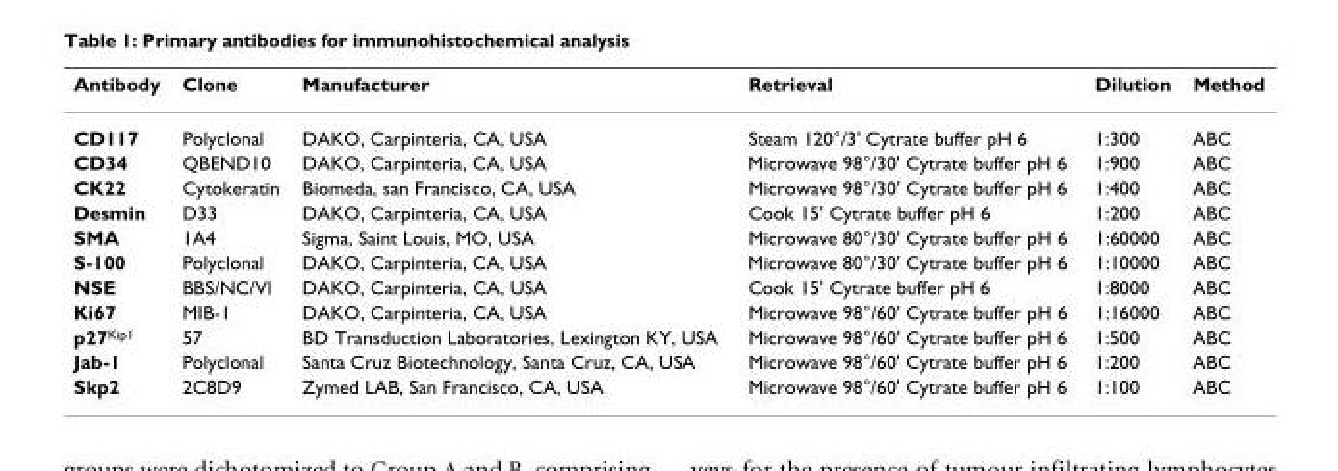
<table><thead><tr><td>Antibody</td><td>Clone</td><td>Manufacturer</td><td>Retrieval</td><td>Dilution</td><td>Method</td></tr></thead><tbody><tr><td>CD117</td><td>Polyclonal</td><td>DAKO, Carpinteria, CA, USA</td><td>Steam 120°/3&#x27; Cytrate buffer pH 6</td><td>1:300</td><td>ABC</td></tr><tr><td>CD34</td><td>QBEND10</td><td>DAKO, Carpinteria, CA, USA</td><td>Microwave 98°/30&#x27; Cytrate buffer pH 6</td><td>1:900</td><td>ABC</td></tr><tr><td>CK22</td><td>Cytokeratin</td><td>Biomeda, san Francisco, CA, USA</td><td>Microwave 98°/30&#x27; Cytrate buffer pH 6</td><td>1:400</td><td>ABC</td></tr><tr><td>Desmin</td><td>D33</td><td>DAKO, Carpinteria, CA, USA</td><td>Cook 15&#x27; Cytrate buffer pH 6</td><td>1:200</td><td>ABC</td></tr><tr><td>SMA</td><td>1A4</td><td>Sigma, Saint Louis, MO, USA</td><td>Microwave 80°/30&#x27; Cytrate buffer pH 6</td><td>1:60000</td><td>ABC</td></tr><tr><td>S-100</td><td>Polyclonal</td><td>DAKO, Carpinteria, CA, USA</td><td>Microwave 80°/30&#x27; Cytrate buffer pH 6</td><td>1:10000</td><td>ABC</td></tr><tr><td>NSE</td><td>BBS/NC/VI</td><td>DAKO, Carpinteria, CA, USA</td><td>Cook 15&#x27; Cytrate buffer pH 6</td><td>1:8000</td><td>ABC</td></tr><tr><td>Ki67</td><td>MIB-1</td><td>DAKO, Carpinteria, CA, USA</td><td>Microwave 98°/60&#x27; Cytrate buffer pH 6</td><td>1:16000</td><td>ABC</td></tr><tr><td>p27<sup>Kip1</sup></td><td>57</td><td>BD Transduction Laboratories, Lexington KY, USA</td><td>Microwave 98°/60&#x27; Cytrate buffer pH 6</td><td>1:500</td><td>ABC</td></tr><tr><td>Jab-1</td><td>Polyclonal</td><td>Santa Cruz Biotechnology, Santa Cruz, CA, USA</td><td>Microwave 98°/60&#x27; Cytrate buffer pH 6</td><td>1:200</td><td>ABC</td></tr><tr><td>Skp2</td><td>2C8D9</td><td>Zymed LAB, San Francisco, CA, USA</td><td>Microwave 98°/60&#x27; Cytrate buffer pH 6</td><td>1:100</td><td>ABC</td></tr></tbody></table>